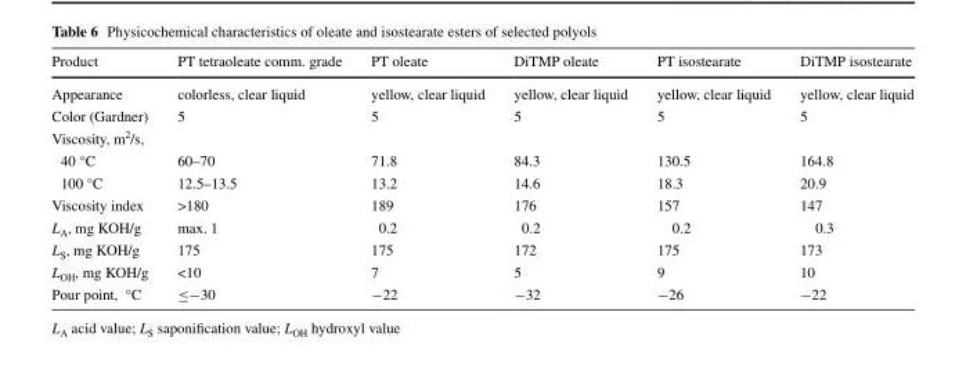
<table><thead><tr><td>Product</td><td>PT tetraoleate comm. grade</td><td>PT oleate</td><td>DiTMP oleate</td><td>PT isostearate</td><td>DiTMP isostearate</td></tr></thead><tbody><tr><td>Appearance</td><td>colorless, clear liquid</td><td>yellow, clear liquid</td><td>yellow, clear liquid</td><td>yellow, clear liquid</td><td>yellow, clear liquid</td></tr><tr><td>Color (Gardner)</td><td>5</td><td>5</td><td>5</td><td>5</td><td>5</td></tr><tr><td colspan="6">Viscosity, m<sup>2</sup>/s,</td></tr><tr><td>40 °C</td><td>60–70</td><td>71.8</td><td>84.3</td><td>130.5</td><td>164.8</td></tr><tr><td>100 °C</td><td>12.5–13.5</td><td>13.2</td><td>14.6</td><td>18.3</td><td>20.9</td></tr><tr><td>Viscosity index</td><td>&gt;180</td><td>189</td><td>176</td><td>157</td><td>147</td></tr><tr><td>L<sub>A</sub>, mg KOH/g</td><td>max. 1</td><td>0.2</td><td>0.2</td><td>0.2</td><td>0.3</td></tr><tr><td>L<sub>S</sub>, mg KOH/g</td><td>175</td><td>175</td><td>172</td><td>175</td><td>173</td></tr><tr><td>L<sub>OH</sub>, mg KOH/g</td><td>&lt;10</td><td>7</td><td>5</td><td>9</td><td>10</td></tr><tr><td>Pour point, °C</td><td>≤−30</td><td>−22</td><td>−32</td><td>−26</td><td>−22</td></tr></tbody></table>